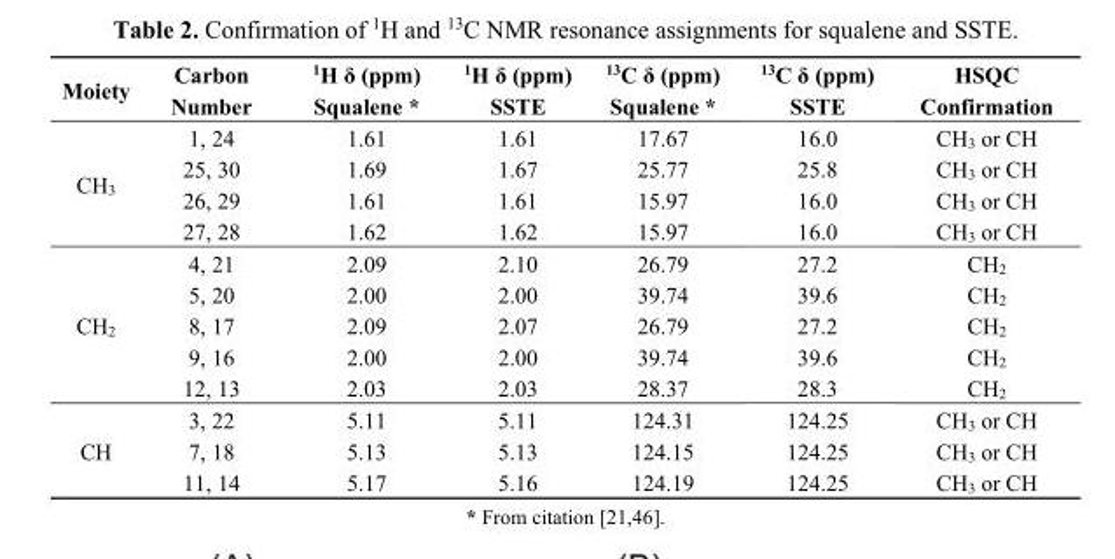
<table><thead><tr><td>Moiety</td><td>Carbon Number</td><td><sup>1</sup>H δ (ppm) Squalene *</td><td><sup>1</sup>H δ (ppm) SSTE</td><td><sup>13</sup>C δ (ppm) Squalene *</td><td><sup>13</sup>C δ (ppm) SSTE</td><td>HSQC Confirmation</td></tr></thead><tbody><tr><td rowspan="4">CH<sub>3</sub></td><td>1, 24</td><td>1.61</td><td>1.61</td><td>17.67</td><td>16.0</td><td>CH<sub>3</sub> or CH</td></tr><tr><td>25, 30</td><td>1.69</td><td>1.67</td><td>25.77</td><td>25.8</td><td>CH<sub>3</sub> or CH</td></tr><tr><td>26, 29</td><td>1.61</td><td>1.61</td><td>15.97</td><td>16.0</td><td>CH<sub>3</sub> or CH</td></tr><tr><td>27, 28</td><td>1.62</td><td>1.62</td><td>15.97</td><td>16.0</td><td>CH<sub>3</sub> or CH</td></tr><tr><td rowspan="5">CH<sub>2</sub></td><td>4, 21</td><td>2.09</td><td>2.10</td><td>26.79</td><td>27.2</td><td>CH<sub>2</sub></td></tr><tr><td>5, 20</td><td>2.00</td><td>2.00</td><td>39.74</td><td>39.6</td><td>CH<sub>2</sub></td></tr><tr><td>8, 17</td><td>2.09</td><td>2.07</td><td>26.79</td><td>27.2</td><td>CH<sub>2</sub></td></tr><tr><td>9, 16</td><td>2.00</td><td>2.00</td><td>39.74</td><td>39.6</td><td>CH<sub>2</sub></td></tr><tr><td>12, 13</td><td>2.03</td><td>2.03</td><td>28.37</td><td>28.3</td><td>CH<sub>2</sub></td></tr><tr><td rowspan="3">CH</td><td>3, 22</td><td>5.11</td><td>5.11</td><td>124.31</td><td>124.25</td><td>CH<sub>3</sub> or CH</td></tr><tr><td>7, 18</td><td>5.13</td><td>5.13</td><td>124.15</td><td>124.25</td><td>CH<sub>3</sub> or CH</td></tr><tr><td>11, 14</td><td>5.17</td><td>5.16</td><td>124.19</td><td>124.25</td><td>CH<sub>3</sub> or CH</td></tr></tbody></table>